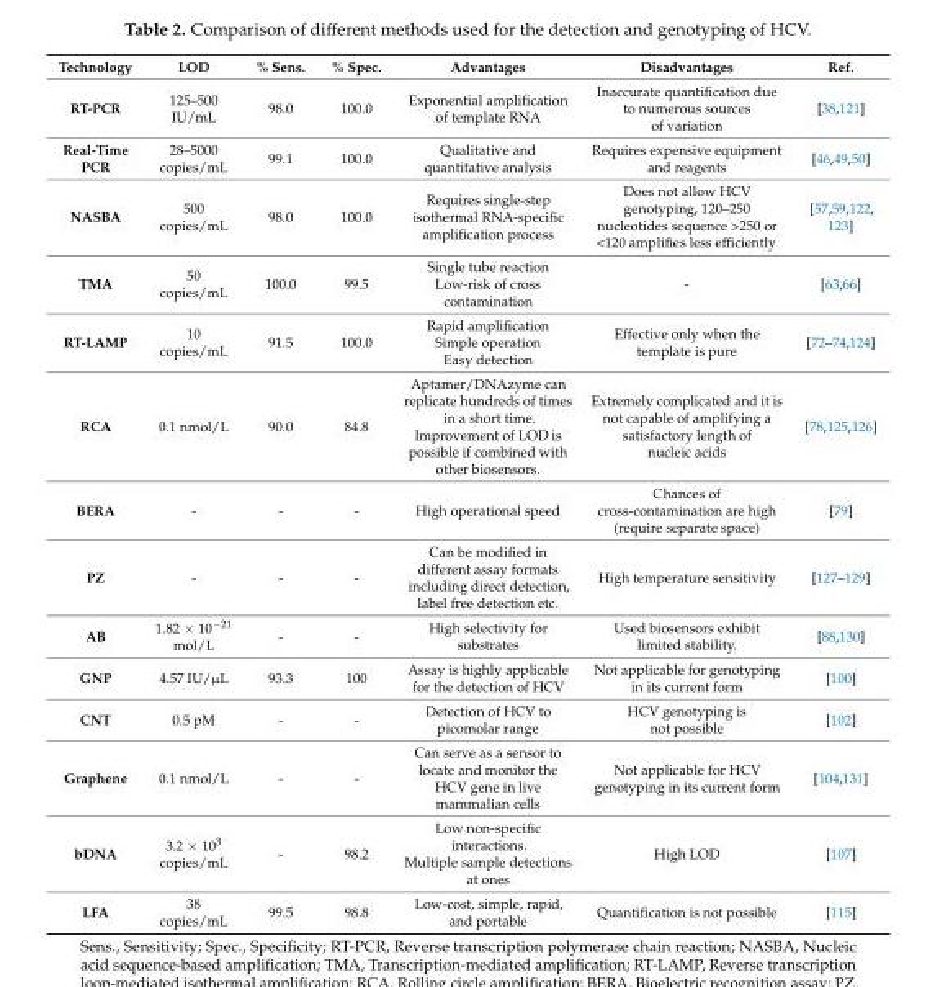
<table><thead><tr><td>Technology</td><td>LOD</td><td>% Sens.</td><td>% Spec.</td><td>Advantages</td><td>Disadvantages</td><td>Ref.</td></tr></thead><tbody><tr><td>RT-PCR</td><td>125–500 IU/mL</td><td>98.0</td><td>100.0</td><td>Exponential amplification of template RNA</td><td>Inaccurate quantification due to numerous sources of variation</td><td>[38,121]</td></tr><tr><td>Real-Time PCR</td><td>28–5000 copies/mL</td><td>99.1</td><td>100.0</td><td>Qualitative and quantitative analysis</td><td>Requires expensive equipment and reagents</td><td>[46,49,50]</td></tr><tr><td>NASBA</td><td>500 copies/mL</td><td>98.0</td><td>100.0</td><td>Requires single-step isothermal RNA-specific amplification process</td><td>Does not allow HCV genotyping, 120–250 nucleotides sequence &gt;250 or &lt;120 amplifies less efficiently</td><td>[57,59,122, 123]</td></tr><tr><td>TMA</td><td>50 copies/mL</td><td>100.0</td><td>99.5</td><td>Single tube reaction Low-risk of cross contamination</td><td>-</td><td>[63,66]</td></tr><tr><td>RT-LAMP</td><td>10 copies/mL</td><td>91.5</td><td>100.0</td><td>Rapid amplification Simple operation Easy detection</td><td>Effective only when the template is pure</td><td>[72–74,124]</td></tr><tr><td>RCA</td><td>0.1 nmol/L</td><td>90.0</td><td>84.8</td><td>Aptamer/DNAzyme can replicate hundreds of times in a short time. Improvement of LOD is possible if combined with other biosensors.</td><td>Extremely complicated and it is not capable of amplifying a satisfactory length of nucleic acids</td><td>[78,125,126]</td></tr><tr><td>BERA</td><td>-</td><td>-</td><td>-</td><td>High operational speed</td><td>Chances of cross-contamination are high (require separate space)</td><td>[79]</td></tr><tr><td>PZ</td><td>-</td><td>-</td><td>-</td><td>Can be modified in different assay formats including direct detection, label free detection etc.</td><td>High temperature sensitivity</td><td>[127–129]</td></tr><tr><td>AB</td><td>1.82 × 10<sup>−21</sup> mol/L</td><td>-</td><td>-</td><td>High selectivity for substrates</td><td>Used biosensors exhibit limited stability.</td><td>[88,130]</td></tr><tr><td>GNP</td><td>4.57 IU/µL</td><td>93.3</td><td>100</td><td>Assay is highly applicable for the detection of HCV</td><td>Not applicable for genotyping in its current form</td><td>[100]</td></tr><tr><td>CNT</td><td>0.5 pM</td><td>-</td><td>-</td><td>Detection of HCV to picomolar range</td><td>HCV genotyping is not possible</td><td>[102]</td></tr><tr><td>Graphene</td><td>0.1 nmol/L</td><td>-</td><td>-</td><td>Can serve as a sensor to locate and monitor the HCV gene in live mammalian cells</td><td>Not applicable for HCV genotyping in its current form</td><td>[104,131]</td></tr><tr><td>bDNA</td><td>3.2 × 10<sup>3</sup> copies/mL</td><td>-</td><td>98.2</td><td>Low non-specific interactions. Multiple sample detections at ones</td><td>High LOD</td><td>[107]</td></tr><tr><td>LFA</td><td>38 copies/mL</td><td>99.5</td><td>98.8</td><td>Low-cost, simple, rapid, and portable</td><td>Quantification is not possible</td><td>[115]</td></tr></tbody></table>